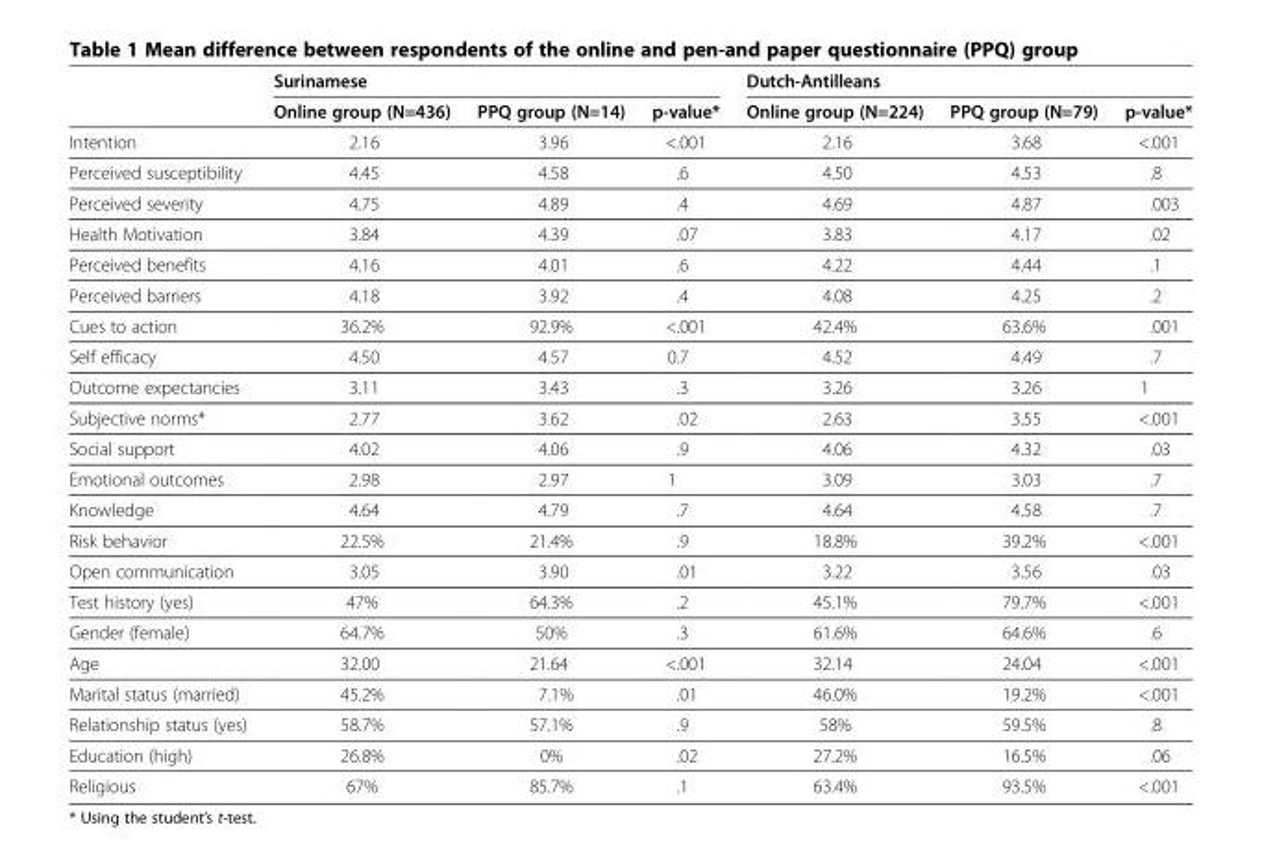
<table><thead><tr><td rowspan="2"></td><td colspan="3">Surinamese</td><td colspan="3">Dutch-Antilleans</td></tr><tr><td>Online group (N=436)</td><td>PPQ group (N=14)</td><td>p-value*</td><td>Online group (N=224)</td><td>PPQ group (N=79)</td><td>p-value*</td></tr></thead><tbody><tr><td>Intention</td><td>2.16</td><td>3.96</td><td>&lt;.001</td><td>2.16</td><td>3.68</td><td>&lt;.001</td></tr><tr><td>Perceived susceptibility</td><td>4.45</td><td>4.58</td><td>.6</td><td>4.50</td><td>4.53</td><td>.8</td></tr><tr><td>Perceived severity</td><td>4.75</td><td>4.89</td><td>.4</td><td>4.69</td><td>4.87</td><td>.003</td></tr><tr><td>Health Motivation</td><td>3.84</td><td>4.39</td><td>.07</td><td>3.83</td><td>4.17</td><td>.02</td></tr><tr><td>Perceived benefits</td><td>4.16</td><td>4.01</td><td>.6</td><td>4.22</td><td>4.44</td><td>.1</td></tr><tr><td>Perceived barriers</td><td>4.18</td><td>3.92</td><td>.4</td><td>4.08</td><td>4.25</td><td>.2</td></tr><tr><td>Cues to action</td><td>36.2%</td><td>92.9%</td><td>&lt;.001</td><td>42.4%</td><td>63.6%</td><td>.001</td></tr><tr><td>Self efficacy</td><td>4.50</td><td>4.57</td><td>0.7</td><td>4.52</td><td>4.49</td><td>.7</td></tr><tr><td>Outcome expectancies</td><td>3.11</td><td>3.43</td><td>.3</td><td>3.26</td><td>3.26</td><td>1</td></tr><tr><td>Subjective norms*</td><td>2.77</td><td>3.62</td><td>.02</td><td>2.63</td><td>3.55</td><td>&lt;.001</td></tr><tr><td>Social support</td><td>4.02</td><td>4.06</td><td>.9</td><td>4.06</td><td>4.32</td><td>.03</td></tr><tr><td>Emotional outcomes</td><td>2.98</td><td>2.97</td><td>1</td><td>3.09</td><td>3.03</td><td>.7</td></tr><tr><td>Knowledge</td><td>4.64</td><td>4.79</td><td>.7</td><td>4.64</td><td>4.58</td><td>.7</td></tr><tr><td>Risk behavior</td><td>22.5%</td><td>21.4%</td><td>.9</td><td>18.8%</td><td>39.2%</td><td>&lt;.001</td></tr><tr><td>Open communication</td><td>3.05</td><td>3.90</td><td>.01</td><td>3.22</td><td>3.56</td><td>.03</td></tr><tr><td>Test history (yes)</td><td>47%</td><td>64.3%</td><td>.2</td><td>45.1%</td><td>79.7%</td><td>&lt;.001</td></tr><tr><td>Gender (female)</td><td>64.7%</td><td>50%</td><td>.3</td><td>61.6%</td><td>64.6%</td><td>.6</td></tr><tr><td>Age</td><td>32.00</td><td>21.64</td><td>&lt;.001</td><td>32.14</td><td>24.04</td><td>&lt;.001</td></tr><tr><td>Marital status (married)</td><td>45.2%</td><td>7.1%</td><td>.01</td><td>46.0%</td><td>19.2%</td><td>&lt;.001</td></tr><tr><td>Relationship status (yes)</td><td>58.7%</td><td>57.1%</td><td>.9</td><td>58%</td><td>59.5%</td><td>.8</td></tr><tr><td>Education (high)</td><td>26.8%</td><td>0%</td><td>.02</td><td>27.2%</td><td>16.5%</td><td>.06</td></tr><tr><td>Religious</td><td>67%</td><td>85.7%</td><td>.1</td><td>63.4%</td><td>93.5%</td><td>&lt;.001</td></tr></tbody></table>